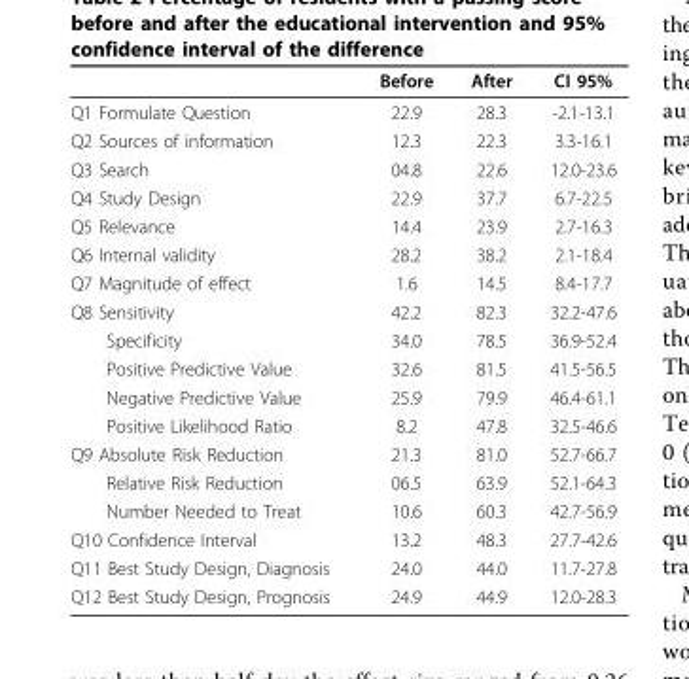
<table><thead><tr><td></td><td>Before</td><td>After</td><td>CI 95%</td></tr></thead><tbody><tr><td>Q1 Formulate Question</td><td>22.9</td><td>28.3</td><td>-2.1-13.1</td></tr><tr><td>Q2 Sources of information</td><td>12.3</td><td>22.3</td><td>3.3-16.1</td></tr><tr><td>Q3 Search</td><td>04.8</td><td>22.6</td><td>12.0-23.6</td></tr><tr><td>Q4 Study Design</td><td>22.9</td><td>37.7</td><td>6.7-22.5</td></tr><tr><td>Q5 Relevance</td><td>14.4</td><td>23.9</td><td>2.7-16.3</td></tr><tr><td>Q6 Internal validity</td><td>28.2</td><td>38.2</td><td>2.1-18.4</td></tr><tr><td>Q7 Magnitude of effect</td><td>1.6</td><td>14.5</td><td>8.4-17.7</td></tr><tr><td>Q8 Sensitivity</td><td>42.2</td><td>82.3</td><td>32.2-47.6</td></tr><tr><td>Specificity</td><td>34.0</td><td>78.5</td><td>36.9-52.4</td></tr><tr><td>Positive Predictive Value</td><td>32.6</td><td>81.5</td><td>41.5-56.5</td></tr><tr><td>Negative Predictive Value</td><td>25.9</td><td>79.9</td><td>46.4-61.1</td></tr><tr><td>Positive Likelihood Ratio</td><td>8.2</td><td>47.8</td><td>32.5-46.6</td></tr><tr><td>Q9 Absolute Risk Reduction</td><td>21.3</td><td>81.0</td><td>52.7-66.7</td></tr><tr><td>Relative Risk Reduction</td><td>06.5</td><td>63.9</td><td>52.1-64.3</td></tr><tr><td>Number Needed to Treat</td><td>10.6</td><td>60.3</td><td>42.7-56.9</td></tr><tr><td>Q10 Confidence Interval</td><td>13.2</td><td>48.3</td><td>27.7-42.6</td></tr><tr><td>Q11 Best Study Design, Diagnosis</td><td>24.0</td><td>44.0</td><td>11.7-27.8</td></tr><tr><td>Q12 Best Study Design, Prognosis</td><td>24.9</td><td>44.9</td><td>12.0-28.3</td></tr></tbody></table>